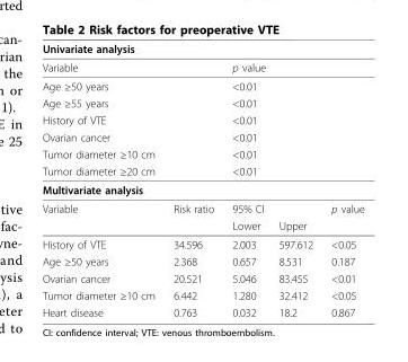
<table><thead><tr><td colspan="2">Univariate analysis</td><td></td><td></td><td></td></tr></thead><tbody><tr><td colspan="2">Variable</td><td colspan="3">p value</td></tr><tr><td colspan="2">Age ≥50 years</td><td colspan="3">&lt;0.01</td></tr><tr><td colspan="2">Age ≥55 years</td><td colspan="3">&lt;0.01</td></tr><tr><td colspan="2">History of VTE</td><td colspan="3">&lt;0.01</td></tr><tr><td colspan="2">Ovarian cancer</td><td colspan="3">&lt;0.01</td></tr><tr><td colspan="2">Tumor diameter ≥10 cm</td><td colspan="3">&lt;0.01</td></tr><tr><td colspan="2">Tumor diameter ≥20 cm</td><td colspan="3">&lt;0.01</td></tr><tr><td colspan="5">Multivariate analysis</td></tr><tr><td rowspan="2">Variable</td><td>Risk ratio</td><td colspan="2">95% CI</td><td>p value</td></tr><tr><td></td><td>Lower</td><td>Upper</td><td></td></tr><tr><td>History of VTE</td><td>34.596</td><td>2.003</td><td>597.612</td><td>&lt;0.05</td></tr><tr><td>Age ≥50 years</td><td>2.368</td><td>0.657</td><td>8.531</td><td>0.187</td></tr><tr><td>Ovarian cancer</td><td>20.521</td><td>5.046</td><td>83.455</td><td>&lt;0.01</td></tr><tr><td>Tumor diameter ≥10 cm</td><td>6.442</td><td>1.280</td><td>32.412</td><td>&lt;0.05</td></tr><tr><td>Heart disease</td><td>0.763</td><td>0.032</td><td>18.2</td><td>0.867</td></tr></tbody></table>